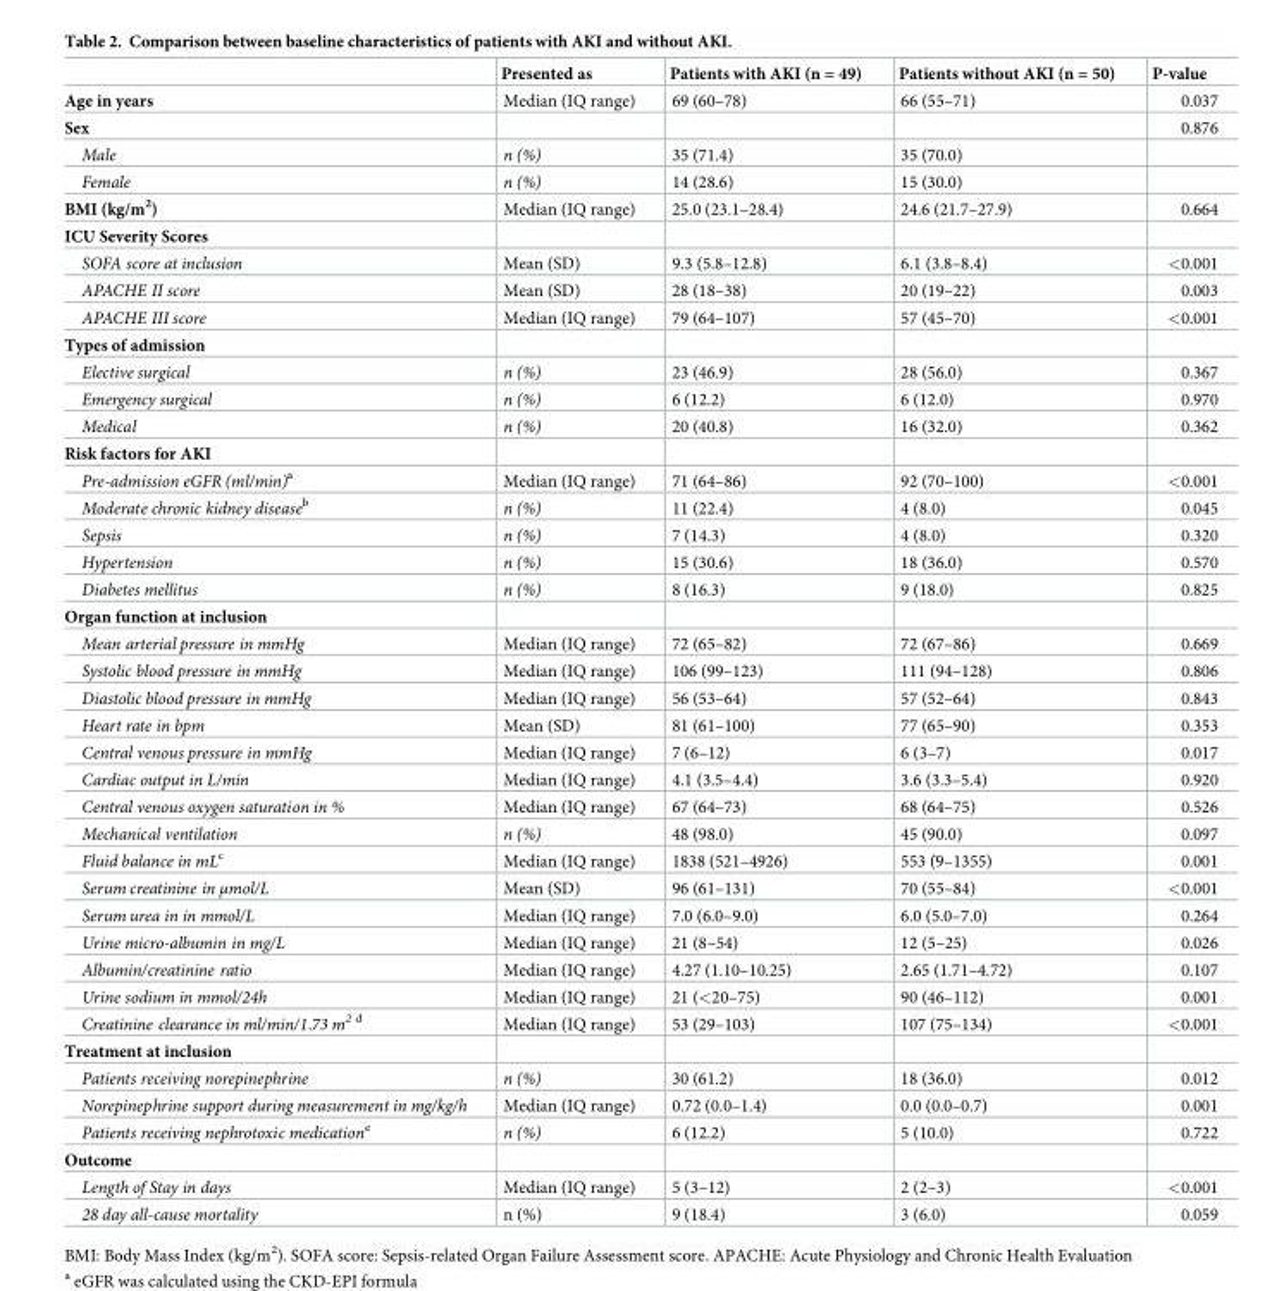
<table><thead><tr><td></td><td>Presented as</td><td>Patients with AKI (n = 49)</td><td>Patients without AKI (n = 50)</td><td>P-value</td></tr></thead><tbody><tr><td>Age in years</td><td>Median (IQ range)</td><td>69 (60–78)</td><td>66 (55–71)</td><td>0.037</td></tr><tr><td>Sex</td><td></td><td></td><td></td><td>0.876</td></tr><tr><td>Male</td><td>n (%)</td><td>35 (71.4)</td><td>35 (70.0)</td><td></td></tr><tr><td>Female</td><td>n (%)</td><td>14 (28.6)</td><td>15 (30.0)</td><td></td></tr><tr><td>BMI (kg/m<sup>2</sup>)</td><td>Median (IQ range)</td><td>25.0 (23.1–28.4)</td><td>24.6 (21.7–27.9)</td><td>0.664</td></tr><tr><td colspan="5">ICU Severity Scores</td></tr><tr><td>SOFA score at inclusion</td><td>Mean (SD)</td><td>9.3 (5.8–12.8)</td><td>6.1 (3.8–8.4)</td><td>&lt;0.001</td></tr><tr><td>APACHE II score</td><td>Mean (SD)</td><td>28 (18–38)</td><td>20 (19–22)</td><td>0.003</td></tr><tr><td>APACHE III score</td><td>Median (IQ range)</td><td>79 (64–107)</td><td>57 (45–70)</td><td>&lt;0.001</td></tr><tr><td colspan="5">Types of admission</td></tr><tr><td>Elective surgical</td><td>n (%)</td><td>23 (46.9)</td><td>28 (56.0)</td><td>0.367</td></tr><tr><td>Emergency surgical</td><td>n (%)</td><td>6 (12.2)</td><td>6 (12.0)</td><td>0.970</td></tr><tr><td>Medical</td><td>n (%)</td><td>20 (40.8)</td><td>16 (32.0)</td><td>0.362</td></tr><tr><td colspan="5">Risk factors for AKI</td></tr><tr><td>Pre-admission eGFR (ml/min)<sup>a</sup></td><td>Median (IQ range)</td><td>71 (64–86)</td><td>92 (70–100)</td><td>&lt;0.001</td></tr><tr><td>Moderate chronic kidney disease<sup>b</sup></td><td>n (%)</td><td>11 (22.4)</td><td>4 (8.0)</td><td>0.045</td></tr><tr><td>Sepsis</td><td>n (%)</td><td>7 (14.3)</td><td>4 (8.0)</td><td>0.320</td></tr><tr><td>Hypertension</td><td>n (%)</td><td>15 (30.6)</td><td>18 (36.0)</td><td>0.570</td></tr><tr><td>Diabetes mellitus</td><td>n (%)</td><td>8 (16.3)</td><td>9 (18.0)</td><td>0.825</td></tr><tr><td colspan="5">Organ function at inclusion</td></tr><tr><td>Mean arterial pressure in mmHg</td><td>Median (IQ range)</td><td>72 (65–82)</td><td>72 (67–86)</td><td>0.669</td></tr><tr><td>Systolic blood pressure in mmHg</td><td>Median (IQ range)</td><td>106 (99–123)</td><td>111 (94–128)</td><td>0.806</td></tr><tr><td>Diastolic blood pressure in mmHg</td><td>Median (IQ range)</td><td>56 (53–64)</td><td>57 (52–64)</td><td>0.843</td></tr><tr><td>Heart rate in bpm</td><td>Mean (SD)</td><td>81 (61–100)</td><td>77 (65–90)</td><td>0.353</td></tr><tr><td>Central venous pressure in mmHg</td><td>Median (IQ range)</td><td>7 (6–12)</td><td>6 (3–7)</td><td>0.017</td></tr><tr><td>Cardiac output in L/min</td><td>Median (IQ range)</td><td>4.1 (3.5–4.4)</td><td>3.6 (3.3–5.4)</td><td>0.920</td></tr><tr><td>Central venous oxygen saturation in %</td><td>Median (IQ range)</td><td>67 (64–73)</td><td>68 (64–75)</td><td>0.526</td></tr><tr><td>Mechanical ventilation</td><td>n (%)</td><td>48 (98.0)</td><td>45 (90.0)</td><td>0.097</td></tr><tr><td>Fluid balance in mL<sup>c</sup></td><td>Median (IQ range)</td><td>1838 (521–4926)</td><td>553 (¯9–1355)</td><td>0.001</td></tr><tr><td>Serum creatinine in μmol/L</td><td>Mean (SD)</td><td>96 (61–131)</td><td>70 (55–84)</td><td>&lt;0.001</td></tr><tr><td>Serum urea in in mmol/L</td><td>Median (IQ range)</td><td>7.0 (6.0–9.0)</td><td>6.0 (5.0–7.0)</td><td>0.264</td></tr><tr><td>Urine micro-albumin in mg/L</td><td>Median (IQ range)</td><td>21 (8–54)</td><td>12 (5–25)</td><td>0.026</td></tr><tr><td>Albumin/creatinine ratio</td><td>Median (IQ range)</td><td>4.27 (1.10–10.25)</td><td>2.65 (1.71–4.72)</td><td>0.107</td></tr><tr><td>Urine sodium in mmol/24h</td><td>Median (IQ range)</td><td>21 (&lt;20–75)</td><td>90 (46–112)</td><td>0.001</td></tr><tr><td>Creatinine clearance in ml/min/1.73 m<sup>2 d</sup></td><td>Median (IQ range)</td><td>53 (29–103)</td><td>107 (75–134)</td><td>&lt;0.001</td></tr><tr><td colspan="5">Treatment at inclusion</td></tr><tr><td>Patients receiving norepinephrine</td><td>n (%)</td><td>30 (61.2)</td><td>18 (36.0)</td><td>0.012</td></tr><tr><td>Norepinephrine support during measurement in mg/kg/h</td><td>Median (IQ range)</td><td>0.72 (0.0–1.4)</td><td>0.0 (0.0–0.7)</td><td>0.001</td></tr><tr><td>Patients receiving nephrotoxic medication<sup>e</sup></td><td>n (%)</td><td>6 (12.2)</td><td>5 (10.0)</td><td>0.722</td></tr><tr><td colspan="5">Outcome</td></tr><tr><td>Length of Stay in days</td><td>Median (IQ range)</td><td>5 (3–12)</td><td>2 (2–3)</td><td>&lt;0.001</td></tr><tr><td>28 day all-cause mortality</td><td>n (%)</td><td>9 (18.4)</td><td>3 (6.0)</td><td>0.059</td></tr></tbody></table>